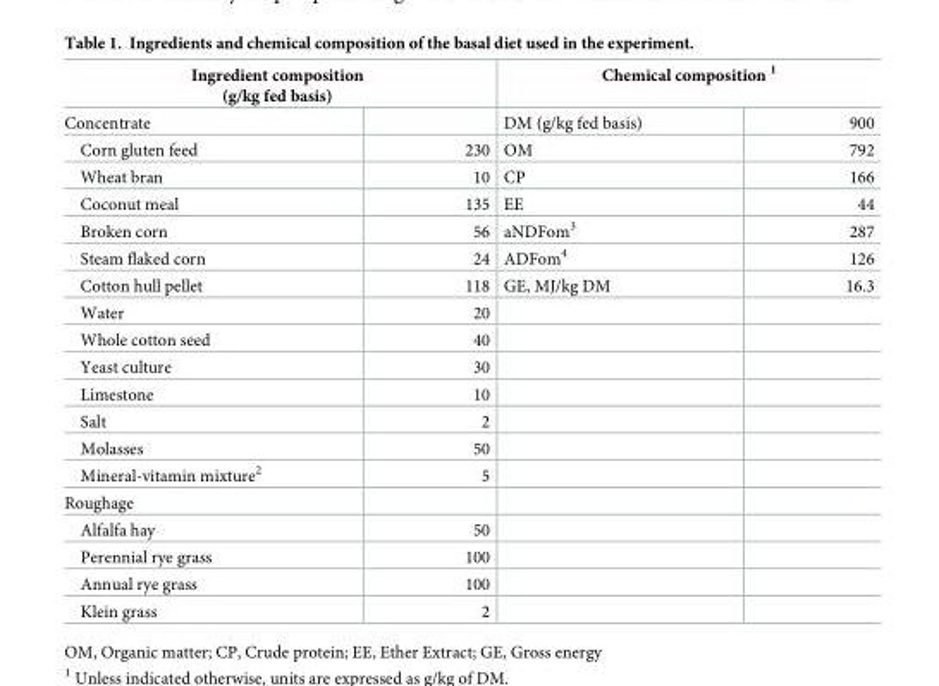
<table><thead><tr><td colspan="2">Ingredient composition (g/kg fed basis)</td><td colspan="2">Chemical composition <sup>1</sup></td></tr><tr><td>Concentrate</td><td></td><td>DM (g/kg fed basis)</td><td>900</td></tr></thead><tbody><tr><td>Corn gluten feed</td><td>230</td><td>OM</td><td>792</td></tr><tr><td>Wheat bran</td><td>10</td><td>CP</td><td>166</td></tr><tr><td>Coconut meal</td><td>135</td><td>EE</td><td>44</td></tr><tr><td>Broken corn</td><td>56</td><td>aNDFom<sup>3</sup></td><td>287</td></tr><tr><td>Steam flaked corn</td><td>24</td><td>ADFom<sup>4</sup></td><td>126</td></tr><tr><td>Cotton hull pellet</td><td>118</td><td>GE, MJ/kg DM</td><td>16.3</td></tr><tr><td>Water</td><td>20</td><td></td><td></td></tr><tr><td>Whole cotton seed</td><td>40</td><td></td><td></td></tr><tr><td>Yeast culture</td><td>30</td><td></td><td></td></tr><tr><td>Limestone</td><td>10</td><td></td><td></td></tr><tr><td>Salt</td><td>2</td><td></td><td></td></tr><tr><td>Molasses</td><td>50</td><td></td><td></td></tr><tr><td>Mineral-vitamin mixture<sup>2</sup></td><td>5</td><td></td><td></td></tr><tr><td colspan="4">Roughage</td></tr><tr><td>Alfalfa hay</td><td>50</td><td></td><td></td></tr><tr><td>Perennial rye grass</td><td>100</td><td></td><td></td></tr><tr><td>Annual rye grass</td><td>100</td><td></td><td></td></tr><tr><td>Klein grass</td><td>2</td><td></td><td></td></tr></tbody></table>